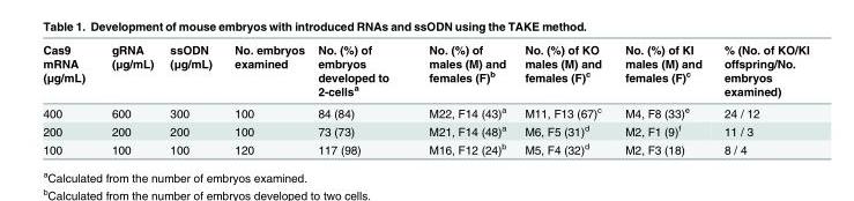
<table><thead><tr><td>Cas9 mRNA (μg/mL)</td><td>gRNA (μg/mL)</td><td>ssODN (μg/mL)</td><td>No. embryos examined</td><td>No. (%) of embryos developed to 2-cells<sup>a</sup></td><td>No. (%) of males (M) and females (F)<sup>b</sup></td><td>No. (%) of KO males (M) and females (F)<sup>c</sup></td><td>No. (%) of KI males (M) and females (F)<sup>c</sup></td><td>% (No. of KO/KI offspring/No. embryos examined)</td></tr></thead><tbody><tr><td>400</td><td>600</td><td>300</td><td>100</td><td>84 (84)</td><td>M22, F14 (43)<sup>a</sup></td><td>M11, F13 (67)<sup>c</sup></td><td>M4, F8 (33)<sup>e</sup></td><td>24 / 12</td></tr><tr><td>200</td><td>200</td><td>200</td><td>100</td><td>73 (73)</td><td>M21, F14 (48)<sup>a</sup></td><td>M6, F5 (31)<sup>d</sup></td><td>M2, F1 (9)<sup>f</sup></td><td>11 / 3</td></tr><tr><td>100</td><td>100</td><td>100</td><td>120</td><td>117 (98)</td><td>M16, F12 (24)<sup>b</sup></td><td>M5, F4 (32)<sup>d</sup></td><td>M2, F3 (18)</td><td>8 / 4</td></tr></tbody></table>